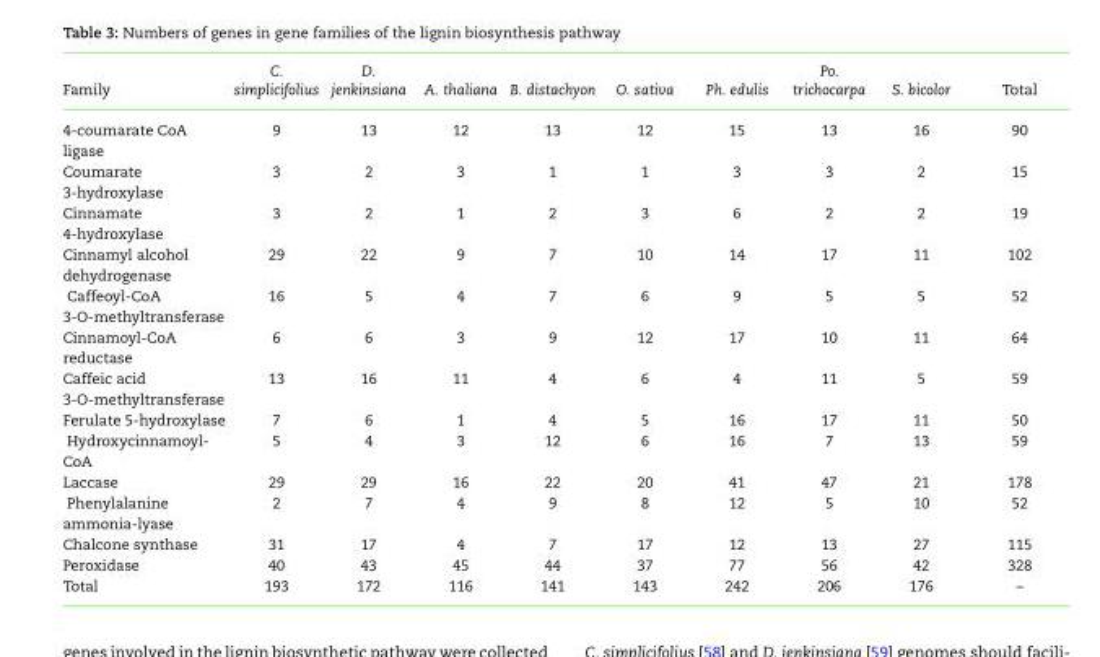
<table><thead><tr><td>Family</td><td>C. simplicifolius</td><td>D. jenkinsiana</td><td>A. thaliana</td><td>B. distachyon</td><td>O. sativa</td><td>Ph. edulis</td><td>Po. trichocarpa</td><td>S. bicolor</td><td>Total</td></tr></thead><tbody><tr><td>4-coumarate CoA ligase</td><td>9</td><td>13</td><td>12</td><td>13</td><td>12</td><td>15</td><td>13</td><td>16</td><td>90</td></tr><tr><td>Coumarate 3-hydroxylase</td><td>3</td><td>2</td><td>3</td><td>1</td><td>1</td><td>3</td><td>3</td><td>2</td><td>15</td></tr><tr><td>Cinnamate 4-hydroxylase</td><td>3</td><td>2</td><td>1</td><td>2</td><td>3</td><td>6</td><td>2</td><td>2</td><td>19</td></tr><tr><td>Cinnamyl alcohol dehydrogenase</td><td>29</td><td>22</td><td>9</td><td>7</td><td>10</td><td>14</td><td>17</td><td>11</td><td>102</td></tr><tr><td>Caffeoyl-CoA 3-O-methyltransferase</td><td>16</td><td>5</td><td>4</td><td>7</td><td>6</td><td>9</td><td>5</td><td>5</td><td>52</td></tr><tr><td>Cinnamoyl-CoA reductase</td><td>6</td><td>6</td><td>3</td><td>9</td><td>12</td><td>17</td><td>10</td><td>11</td><td>64</td></tr><tr><td>Caffeic acid 3-O-methyltransferase</td><td>13</td><td>16</td><td>11</td><td>4</td><td>6</td><td>4</td><td>11</td><td>5</td><td>59</td></tr><tr><td>Ferulate 5-hydroxylase</td><td>7</td><td>6</td><td>1</td><td>4</td><td>5</td><td>16</td><td>17</td><td>11</td><td>50</td></tr><tr><td>Hydroxycinnamoyl- CoA</td><td>5</td><td>4</td><td>3</td><td>12</td><td>6</td><td>16</td><td>7</td><td>13</td><td>59</td></tr><tr><td>Laccase</td><td>29</td><td>29</td><td>16</td><td>22</td><td>20</td><td>41</td><td>47</td><td>21</td><td>178</td></tr><tr><td>Phenylalanine ammonia-lyase</td><td>2</td><td>7</td><td>4</td><td>9</td><td>8</td><td>12</td><td>5</td><td>10</td><td>52</td></tr><tr><td>Chalcone synthase</td><td>31</td><td>17</td><td>4</td><td>7</td><td>17</td><td>12</td><td>13</td><td>27</td><td>115</td></tr><tr><td>Peroxidase</td><td>40</td><td>43</td><td>45</td><td>44</td><td>37</td><td>77</td><td>56</td><td>42</td><td>328</td></tr><tr><td>Total</td><td>193</td><td>172</td><td>116</td><td>141</td><td>143</td><td>242</td><td>206</td><td>176</td><td>–</td></tr></tbody></table>